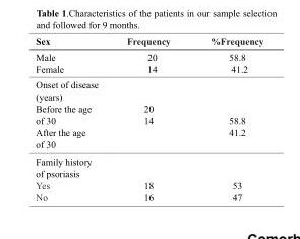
<table><thead><tr><td>Sex</td><td>Frequency</td><td>%Frequency</td></tr></thead><tbody><tr><td>Male Female</td><td>20 14</td><td>58.8 41.2</td></tr><tr><td colspan="3">Onset of disease (years)</td></tr><tr><td>Before the age of 30 After the age of 30</td><td>20 14</td><td>58.8 41.2</td></tr><tr><td colspan="3">Family history of psoriasis</td></tr><tr><td>Yes No</td><td>18 16</td><td>53 47</td></tr></tbody></table>